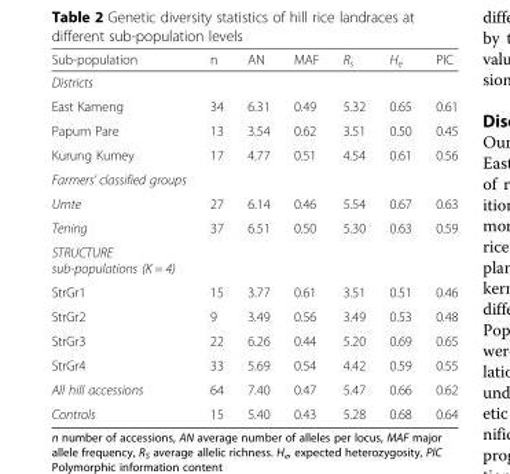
<table><thead><tr><td>Sub-population</td><td>n</td><td>AN</td><td>MAF</td><td>R<sub>s</sub></td><td>H<sub>e</sub></td><td>PIC</td></tr></thead><tbody><tr><td colspan="7">Districts</td></tr><tr><td>East Kameng</td><td>34</td><td>6.31</td><td>0.49</td><td>5.32</td><td>0.65</td><td>0.61</td></tr><tr><td>Papum Pare</td><td>13</td><td>3.54</td><td>0.62</td><td>3.51</td><td>0.50</td><td>0.45</td></tr><tr><td>Kurung Kumey</td><td>17</td><td>4.77</td><td>0.51</td><td>4.54</td><td>0.61</td><td>0.56</td></tr><tr><td colspan="7">Farmers’ classified groups</td></tr><tr><td>Umte</td><td>27</td><td>6.14</td><td>0.46</td><td>5.54</td><td>0.67</td><td>0.63</td></tr><tr><td>Tening</td><td>37</td><td>6.51</td><td>0.50</td><td>5.30</td><td>0.63</td><td>0.59</td></tr><tr><td colspan="7">STRUCTURE sub-populations (K = 4)</td></tr><tr><td>StrGr1</td><td>15</td><td>3.77</td><td>0.61</td><td>3.51</td><td>0.51</td><td>0.46</td></tr><tr><td>StrGr2</td><td>9</td><td>3.49</td><td>0.56</td><td>3.49</td><td>0.53</td><td>0.48</td></tr><tr><td>StrGr3</td><td>22</td><td>6.26</td><td>0.44</td><td>5.20</td><td>0.69</td><td>0.65</td></tr><tr><td>StrGr4</td><td>33</td><td>5.69</td><td>0.54</td><td>4.42</td><td>0.59</td><td>0.55</td></tr><tr><td>All hill accessions</td><td>64</td><td>7.40</td><td>0.47</td><td>5.47</td><td>0.66</td><td>0.62</td></tr><tr><td>Controls</td><td>15</td><td>5.40</td><td>0.43</td><td>5.28</td><td>0.68</td><td>0.64</td></tr></tbody></table>